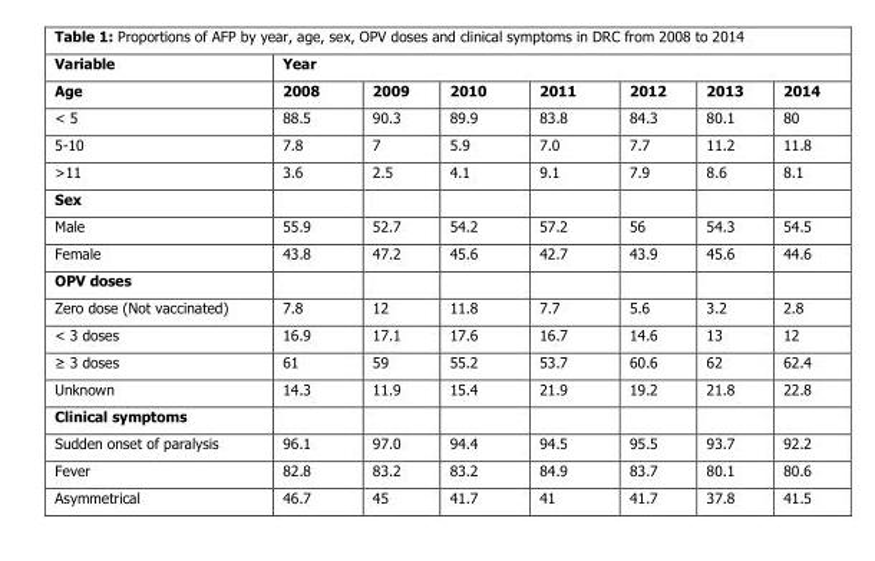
<table><thead><tr><td rowspan="2">Variable Age</td><td colspan="7">Year</td></tr><tr><td>2008</td><td>2009</td><td>2010</td><td>2011</td><td>2012</td><td>2013</td><td>2014</td></tr></thead><tbody><tr><td>&lt; 5</td><td>88.5</td><td>90.3</td><td>89.9</td><td>83.8</td><td>84.3</td><td>80.1</td><td>80</td></tr><tr><td>5-10</td><td>7.8</td><td>7</td><td>5.9</td><td>7.0</td><td>7.7</td><td>11.2</td><td>11.8</td></tr><tr><td>˃11</td><td>3.6</td><td>2.5</td><td>4.1</td><td>9.1</td><td>7.9</td><td>8.6</td><td>8.1</td></tr><tr><td colspan="8">Sex</td></tr><tr><td>Male</td><td>55.9</td><td>52.7</td><td>54.2</td><td>57.2</td><td>56</td><td>54.3</td><td>54.5</td></tr><tr><td>Female</td><td>43.8</td><td>47.2</td><td>45.6</td><td>42.7</td><td>43.9</td><td>45.6</td><td>44.6</td></tr><tr><td colspan="8">OPV doses</td></tr><tr><td>Zero dose (Not vaccinated)</td><td>7.8</td><td>12</td><td>11.8</td><td>7.7</td><td>5.6</td><td>3.2</td><td>2.8</td></tr><tr><td>˂ 3 doses</td><td>16.9</td><td>17.1</td><td>17.6</td><td>16.7</td><td>14.6</td><td>13</td><td>12</td></tr><tr><td>≥ 3 doses</td><td>61</td><td>59</td><td>55.2</td><td>53.7</td><td>60.6</td><td>62</td><td>62.4</td></tr><tr><td>Unknown</td><td>14.3</td><td>11.9</td><td>15.4</td><td>21.9</td><td>19.2</td><td>21.8</td><td>22.8</td></tr><tr><td colspan="8">Clinical symptoms</td></tr><tr><td>Sudden onset of paralysis</td><td>96.1</td><td>97.0</td><td>94.4</td><td>94.5</td><td>95.5</td><td>93.7</td><td>92.2</td></tr><tr><td>Fever</td><td>82.8</td><td>83.2</td><td>83.2</td><td>84.9</td><td>83.7</td><td>80.1</td><td>80.6</td></tr><tr><td>Asymmetrical</td><td>46.7</td><td>45</td><td>41.7</td><td>41</td><td>41.7</td><td>37.8</td><td>41.5</td></tr></tbody></table>